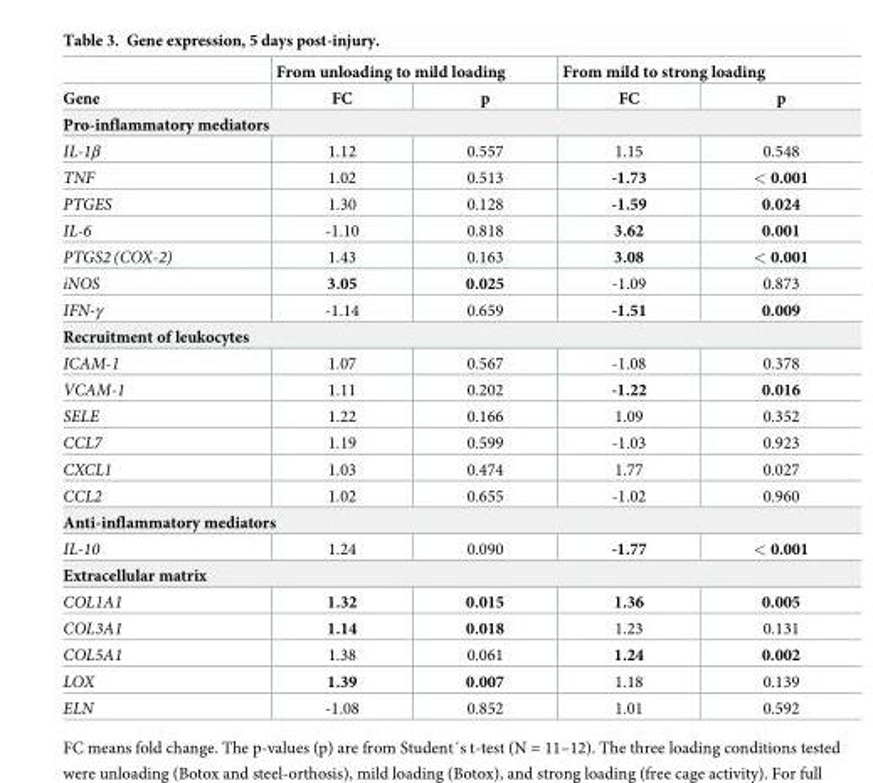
<table><thead><tr><td rowspan="2">Gene</td><td colspan="2">From unloading to mild loading</td><td colspan="2">From mild to strong loading</td></tr><tr><td>FC</td><td>p</td><td>FC</td><td>p</td></tr></thead><tbody><tr><td colspan="5">Pro-inflammatory mediators</td></tr><tr><td>IL-1β</td><td>1.12</td><td>0.557</td><td>1.15</td><td>0.548</td></tr><tr><td>TNF</td><td>1.02</td><td>0.513</td><td>-1.73</td><td>&lt; 0.001</td></tr><tr><td>PTGES</td><td>1.30</td><td>0.128</td><td>-1.59</td><td>0.024</td></tr><tr><td>IL-6</td><td>-1.10</td><td>0.818</td><td>3.62</td><td>0.001</td></tr><tr><td>PTGS2 (COX-2)</td><td>1.43</td><td>0.163</td><td>3.08</td><td>&lt; 0.001</td></tr><tr><td>iNOS</td><td>3.05</td><td>0.025</td><td>-1.09</td><td>0.873</td></tr><tr><td>IFN-γ</td><td>-1.14</td><td>0.659</td><td>-1.51</td><td>0.009</td></tr><tr><td colspan="5">Recruitment of leukocytes</td></tr><tr><td>ICAM-1</td><td>1.07</td><td>0.567</td><td>-1.08</td><td>0.378</td></tr><tr><td>VCAM-1</td><td>1.11</td><td>0.202</td><td>-1.22</td><td>0.016</td></tr><tr><td>SELE</td><td>1.22</td><td>0.166</td><td>1.09</td><td>0.352</td></tr><tr><td>CCL7</td><td>1.19</td><td>0.599</td><td>-1.03</td><td>0.923</td></tr><tr><td>CXCL1</td><td>1.03</td><td>0.474</td><td>1.77</td><td>0.027</td></tr><tr><td>CCL2</td><td>1.02</td><td>0.655</td><td>-1.02</td><td>0.960</td></tr><tr><td colspan="5">Anti-inflammatory mediators</td></tr><tr><td>IL-10</td><td>1.24</td><td>0.090</td><td>-1.77</td><td>&lt; 0.001</td></tr><tr><td colspan="5">Extracellular matrix</td></tr><tr><td>COL1A1</td><td>1.32</td><td>0.015</td><td>1.36</td><td>0.005</td></tr><tr><td>COL3A1</td><td>1.14</td><td>0.018</td><td>1.23</td><td>0.131</td></tr><tr><td>COL5A1</td><td>1.38</td><td>0.061</td><td>1.24</td><td>0.002</td></tr><tr><td>LOX</td><td>1.39</td><td>0.007</td><td>1.18</td><td>0.139</td></tr><tr><td>ELN</td><td>-1.08</td><td>0.852</td><td>1.01</td><td>0.592</td></tr></tbody></table>